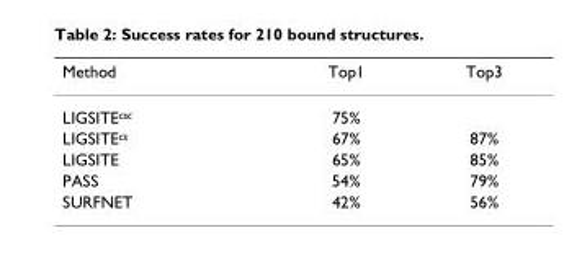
<table><thead><tr><td>Method</td><td>Top1</td><td>Top3</td></tr></thead><tbody><tr><td>LIGSITEcsc</td><td>75%</td><td></td></tr><tr><td>LIGSITEcs</td><td>67%</td><td>87%</td></tr><tr><td>LIGSITE</td><td>65%</td><td>85%</td></tr><tr><td>PASS</td><td>54%</td><td>79%</td></tr><tr><td>SURFNET</td><td>42%</td><td>56%</td></tr></tbody></table>